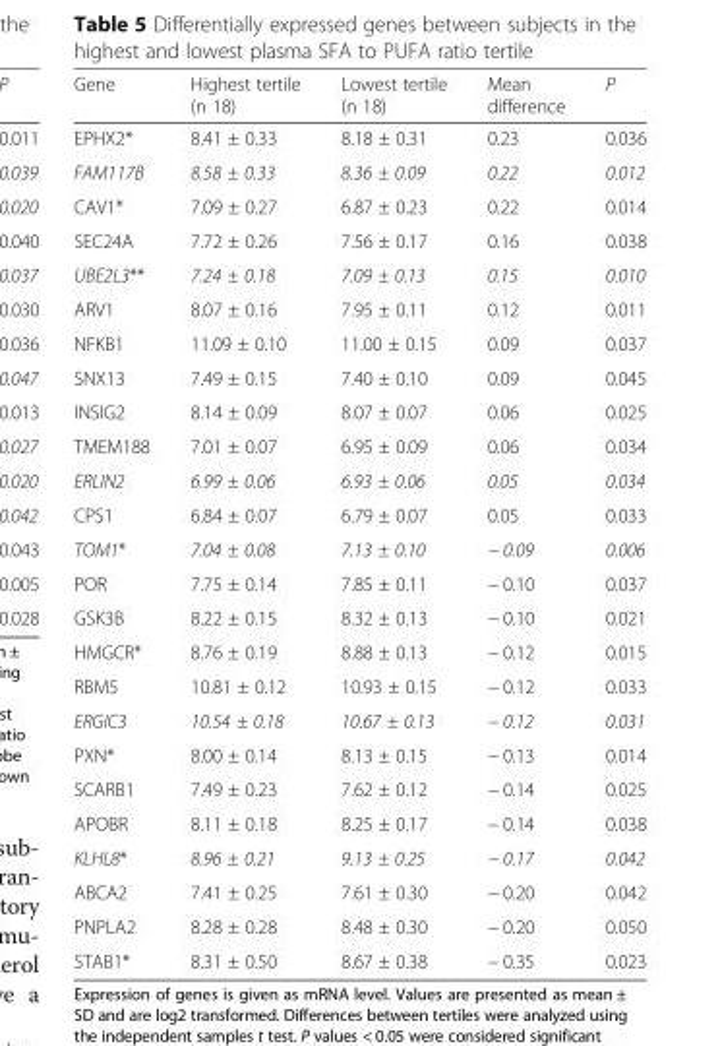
<table><thead><tr><td>Gene</td><td>Highest tertile (n 18)</td><td>Lowest tertile (n 18)</td><td>Mean difference</td><td>P</td></tr></thead><tbody><tr><td>EPHX2*</td><td>8.41 ± 0.33</td><td>8.18 ± 0.31</td><td>0.23</td><td>0.036</td></tr><tr><td>FAM117B</td><td>8.58 ± 0.33</td><td>8.36 ± 0.09</td><td>0.22</td><td>0.012</td></tr><tr><td>CAV1*</td><td>7.09 ± 0.27</td><td>6.87 ± 0.23</td><td>0.22</td><td>0.014</td></tr><tr><td>SEC24A</td><td>7.72 ± 0.26</td><td>7.56 ± 0.17</td><td>0.16</td><td>0.038</td></tr><tr><td>UBE2L3**</td><td>7.24 ± 0.18</td><td>7.09 ± 0.13</td><td>0.15</td><td>0.010</td></tr><tr><td>ARV1</td><td>8.07 ± 0.16</td><td>7.95 ± 0.11</td><td>0.12</td><td>0.011</td></tr><tr><td>NFKB1</td><td>11.09 ± 0.10</td><td>11.00 ± 0.15</td><td>0.09</td><td>0.037</td></tr><tr><td>SNX13</td><td>7.49 ± 0.15</td><td>7.40 ± 0.10</td><td>0.09</td><td>0.045</td></tr><tr><td>INSIG2</td><td>8.14 ± 0.09</td><td>8.07 ± 0.07</td><td>0.06</td><td>0.025</td></tr><tr><td>TMEM188</td><td>7.01 ± 0.07</td><td>6.95 ± 0.09</td><td>0.06</td><td>0.034</td></tr><tr><td>ERLIN2</td><td>6.99 ± 0.06</td><td>6.93 ± 0.06</td><td>0.05</td><td>0.034</td></tr><tr><td>CPS1</td><td>6.84 ± 0.07</td><td>6.79 ± 0.07</td><td>0.05</td><td>0.033</td></tr><tr><td>TOM1*</td><td>7.04 ± 0.08</td><td>7.13 ± 0.10</td><td>− 0.09</td><td>0.006</td></tr><tr><td>POR</td><td>7.75 ± 0.14</td><td>7.85 ± 0.11</td><td>− 0.10</td><td>0.037</td></tr><tr><td>GSK3B</td><td>8.22 ± 0.15</td><td>8.32 ± 0.13</td><td>− 0.10</td><td>0.021</td></tr><tr><td>HMGCR*</td><td>8.76 ± 0.19</td><td>8.88 ± 0.13</td><td>− 0.12</td><td>0.015</td></tr><tr><td>RBM5</td><td>10.81 ± 0.12</td><td>10.93 ± 0.15</td><td>− 0.12</td><td>0.033</td></tr><tr><td>ERGIC3</td><td>10.54 ± 0.18</td><td>10.67 ± 0.13</td><td>− 0.12</td><td>0.031</td></tr><tr><td>PXN*</td><td>8.00 ± 0.14</td><td>8.13 ± 0.15</td><td>− 0.13</td><td>0.014</td></tr><tr><td>SCARB1</td><td>7.49 ± 0.23</td><td>7.62 ± 0.12</td><td>− 0.14</td><td>0.025</td></tr><tr><td>APOBR</td><td>8.11 ± 0.18</td><td>8.25 ± 0.17</td><td>− 0.14</td><td>0.038</td></tr><tr><td>KLHL8*</td><td>8.96 ± 0.21</td><td>9.13 ± 0.25</td><td>− 0.17</td><td>0.042</td></tr><tr><td>ABCA2</td><td>7.41 ± 0.25</td><td>7.61 ± 0.30</td><td>− 0.20</td><td>0.042</td></tr><tr><td>PNPLA2</td><td>8.28 ± 0.28</td><td>8.48 ± 0.30</td><td>− 0.20</td><td>0.050</td></tr><tr><td>STAB1*</td><td>8.31 ± 0.50</td><td>8.67 ± 0.38</td><td>− 0.35</td><td>0.023</td></tr></tbody></table>